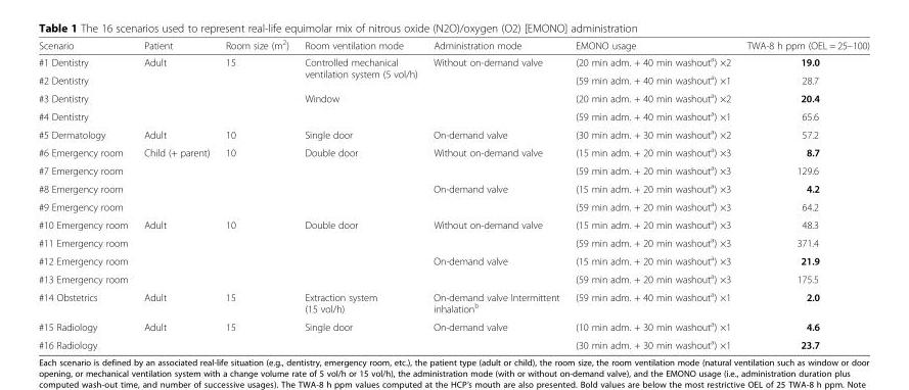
<table><thead><tr><td>Scenario</td><td>Patient</td><td>Room size (m<sup>2</sup>)</td><td>Room ventilation mode</td><td>Administration mode</td><td>EMONO usage</td><td>TWA-8 h ppm (OEL = 25–100)</td></tr></thead><tbody><tr><td>#1 Dentistry</td><td rowspan="4">Adult</td><td rowspan="4">15</td><td rowspan="2">Controlled mechanical ventilation system (5 vol/h)</td><td rowspan="4">Without on-demand valve</td><td>(20 min adm. + 40 min washout<sup>a</sup>) ×2</td><td>19.0</td></tr><tr><td>#2 Dentistry</td><td>(59 min adm. + 40 min washout<sup>a</sup>) ×1</td><td>28.7</td></tr><tr><td>#3 Dentistry</td><td rowspan="2">Window</td><td>(20 min adm. + 40 min washout<sup>a</sup>) ×2</td><td>20.4</td></tr><tr><td>#4 Dentistry</td><td>(59 min adm. + 40 min washout<sup>a</sup>) ×1</td><td>65.6</td></tr><tr><td>#5 Dermatology</td><td>Adult</td><td>10</td><td>Single door</td><td>On-demand valve</td><td>(30 min adm. + 30 min washout<sup>a</sup>) ×2</td><td>57.2</td></tr><tr><td>#6 Emergency room</td><td rowspan="4">Child (+ parent)</td><td rowspan="4">10</td><td rowspan="4">Double door</td><td rowspan="2">Without on-demand valve</td><td>(15 min adm. + 20 min washout<sup>a</sup>) ×3</td><td>8.7</td></tr><tr><td>#7 Emergency room</td><td>(59 min adm. + 20 min washout<sup>a</sup>) ×3</td><td>129.6</td></tr><tr><td>#8 Emergency room</td><td rowspan="2">On-demand valve</td><td>(15 min adm. + 20 min washout<sup>a</sup>) ×3</td><td>4.2</td></tr><tr><td>#9 Emergency room</td><td>(59 min adm. + 20 min washout<sup>a</sup>) ×3</td><td>64.2</td></tr><tr><td>#10 Emergency room</td><td rowspan="4">Adult</td><td rowspan="4">10</td><td rowspan="4">Double door</td><td rowspan="2">Without on-demand valve</td><td>(15 min adm. + 20 min washout<sup>a</sup>) ×3</td><td>48.3</td></tr><tr><td>#11 Emergency room</td><td>(59 min adm. + 20 min washout<sup>a</sup>) ×3</td><td>371.4</td></tr><tr><td>#12 Emergency room</td><td rowspan="2">On-demand valve</td><td>(15 min adm. + 20 min washout<sup>a</sup>) ×3</td><td>21.9</td></tr><tr><td>#13 Emergency room</td><td>(59 min adm. + 20 min washout<sup>a</sup>) ×3</td><td>175.5</td></tr><tr><td>#14 Obstetrics</td><td>Adult</td><td>15</td><td>Extraction system (15 vol/h)</td><td>On-demand valve Intermittent inhalation<sup>b</sup></td><td>(59 min adm. + 40 min washout<sup>a</sup>) ×1</td><td>2.0</td></tr><tr><td>#15 Radiology</td><td rowspan="2">Adult</td><td rowspan="2">15</td><td rowspan="2">Single door</td><td rowspan="2">On-demand valve</td><td>(10 min adm. + 30 min washout<sup>a</sup>) ×1</td><td>4.6</td></tr><tr><td>#16 Radiology</td><td>(30 min adm. + 30 min washout<sup>a</sup>) ×1</td><td>23.7</td></tr></tbody></table>